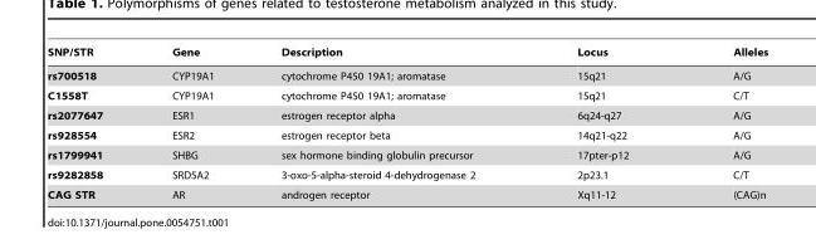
<table><thead><tr><td>SNP/STR</td><td>Gene</td><td>Description</td><td>Locus</td><td>Alleles</td></tr></thead><tbody><tr><td>rs700518</td><td>CYP19A1</td><td>cytochrome P450 19A1; aromatase</td><td>15q21</td><td>A/G</td></tr><tr><td>C1558T</td><td>CYP19A1</td><td>cytochrome P450 19A1; aromatase</td><td>15q21</td><td>C/T</td></tr><tr><td>rs2077647</td><td>ESR1</td><td>estrogen receptor alpha</td><td>6q24-q27</td><td>A/G</td></tr><tr><td>rs928554</td><td>ESR2</td><td>estrogen receptor beta</td><td>14q21-q22</td><td>A/G</td></tr><tr><td>rs1799941</td><td>SHBG</td><td>sex hormone binding globulin precursor</td><td>17pter-p12</td><td>A/G</td></tr><tr><td>rs9282858</td><td>SRD5A2</td><td>3-oxo-5-alpha-steroid 4-dehydrogenase 2</td><td>2p23.1</td><td>C/T</td></tr><tr><td>CAG STR</td><td>AR</td><td>androgen receptor</td><td>Xq11-12</td><td>(CAG)n</td></tr></tbody></table>